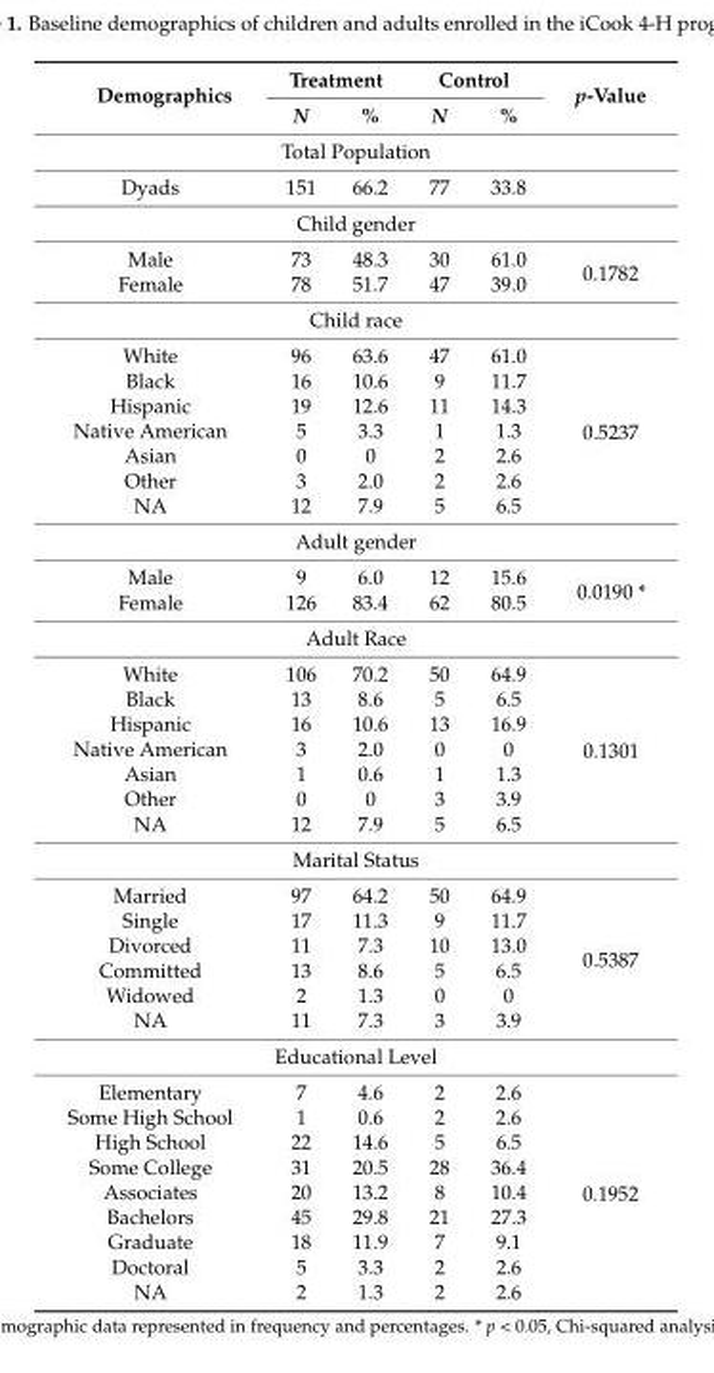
<table><thead><tr><td rowspan="2">Demographics</td><td colspan="2">Treatment</td><td colspan="2">Control</td><td rowspan="2">p-Value</td></tr><tr><td>N</td><td>%</td><td>N</td><td>%</td></tr></thead><tbody><tr><td colspan="6">Total Population</td></tr><tr><td>Dyads</td><td>151</td><td>66.2</td><td>77</td><td>33.8</td><td></td></tr><tr><td colspan="6">Child gender</td></tr><tr><td>Male</td><td>73</td><td>48.3</td><td>30</td><td>61.0</td><td rowspan="2">0.1782</td></tr><tr><td>Female</td><td>78</td><td>51.7</td><td>47</td><td>39.0</td></tr><tr><td colspan="6">Child race</td></tr><tr><td>White</td><td>96</td><td>63.6</td><td>47</td><td>61.0</td><td rowspan="7">0.5237</td></tr><tr><td>Black</td><td>16</td><td>10.6</td><td>9</td><td>11.7</td></tr><tr><td>Hispanic</td><td>19</td><td>12.6</td><td>11</td><td>14.3</td></tr><tr><td>Native American</td><td>5</td><td>3.3</td><td>1</td><td>1.3</td></tr><tr><td>Asian</td><td>0</td><td>0</td><td>2</td><td>2.6</td></tr><tr><td>Other</td><td>3</td><td>2.0</td><td>2</td><td>2.6</td></tr><tr><td>NA</td><td>12</td><td>7.9</td><td>5</td><td>6.5</td></tr><tr><td colspan="6">Adult gender</td></tr><tr><td>Male</td><td>9</td><td>6.0</td><td>12</td><td>15.6</td><td rowspan="2">0.0190 *</td></tr><tr><td>Female</td><td>126</td><td>83.4</td><td>62</td><td>80.5</td></tr><tr><td colspan="6">Adult Race</td></tr><tr><td>White</td><td>106</td><td>70.2</td><td>50</td><td>64.9</td><td rowspan="7">0.1301</td></tr><tr><td>Black</td><td>13</td><td>8.6</td><td>5</td><td>6.5</td></tr><tr><td>Hispanic</td><td>16</td><td>10.6</td><td>13</td><td>16.9</td></tr><tr><td>Native American</td><td>3</td><td>2.0</td><td>0</td><td>0</td></tr><tr><td>Asian</td><td>1</td><td>0.6</td><td>1</td><td>1.3</td></tr><tr><td>Other</td><td>0</td><td>0</td><td>3</td><td>3.9</td></tr><tr><td>NA</td><td>12</td><td>7.9</td><td>5</td><td>6.5</td></tr><tr><td colspan="6">Marital Status</td></tr><tr><td>Married</td><td>97</td><td>64.2</td><td>50</td><td>64.9</td><td rowspan="6">0.5387</td></tr><tr><td>Single</td><td>17</td><td>11.3</td><td>9</td><td>11.7</td></tr><tr><td>Divorced</td><td>11</td><td>7.3</td><td>10</td><td>13.0</td></tr><tr><td>Committed</td><td>13</td><td>8.6</td><td>5</td><td>6.5</td></tr><tr><td>Widowed</td><td>2</td><td>1.3</td><td>0</td><td>0</td></tr><tr><td>NA</td><td>11</td><td>7.3</td><td>3</td><td>3.9</td></tr><tr><td colspan="6">Educational Level</td></tr><tr><td>Elementary</td><td>7</td><td>4.6</td><td>2</td><td>2.6</td><td rowspan="9">0.1952</td></tr><tr><td>Some High School</td><td>1</td><td>0.6</td><td>2</td><td>2.6</td></tr><tr><td>High School</td><td>22</td><td>14.6</td><td>5</td><td>6.5</td></tr><tr><td>Some College</td><td>31</td><td>20.5</td><td>28</td><td>36.4</td></tr><tr><td>Associates</td><td>20</td><td>13.2</td><td>8</td><td>10.4</td></tr><tr><td>Bachelors</td><td>45</td><td>29.8</td><td>21</td><td>27.3</td></tr><tr><td>Graduate</td><td>18</td><td>11.9</td><td>7</td><td>9.1</td></tr><tr><td>Doctoral</td><td>5</td><td>3.3</td><td>2</td><td>2.6</td></tr><tr><td>NA</td><td>2</td><td>1.3</td><td>2</td><td>2.6</td></tr></tbody></table>